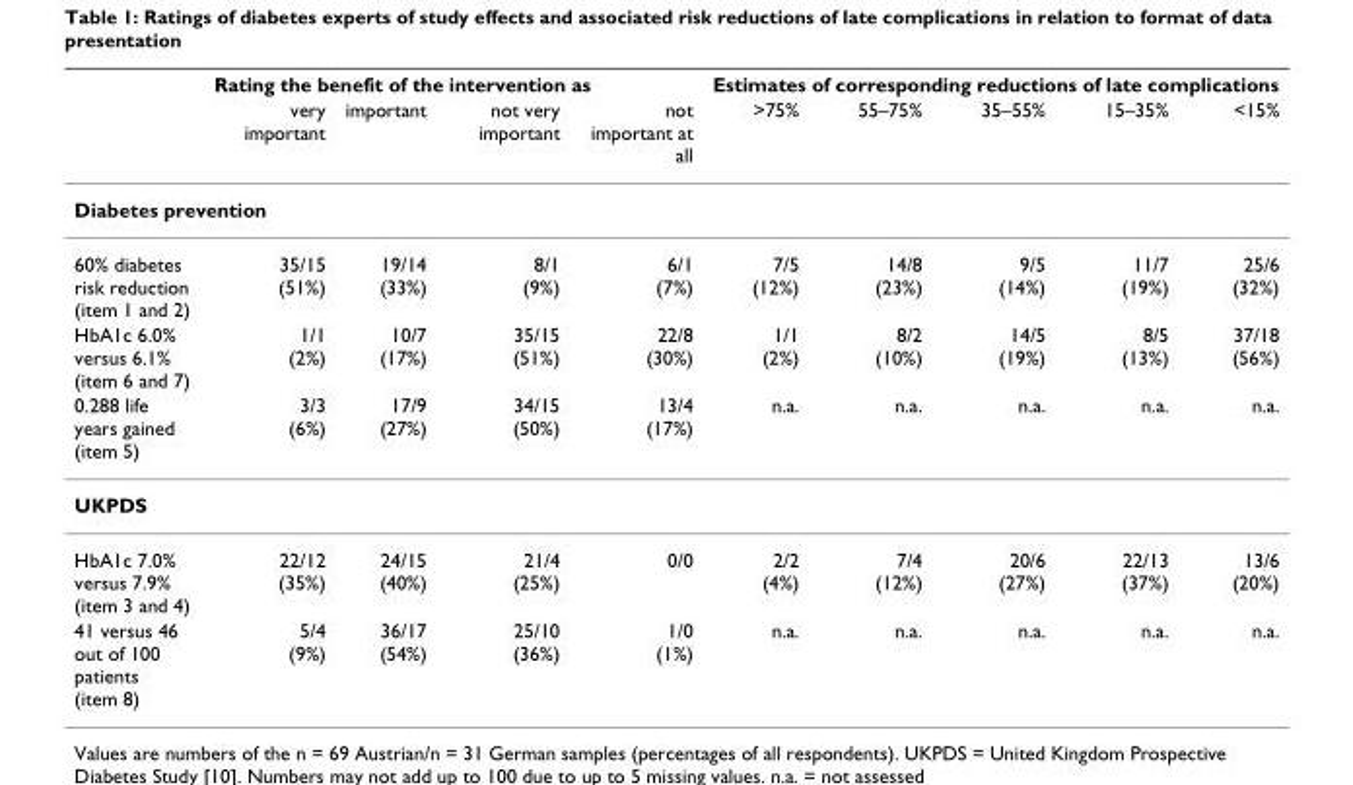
<table><thead><tr><td rowspan="2"></td><td colspan="4">Rating the benefit of the intervention as</td><td colspan="5">Estimates of corresponding reductions of late complications</td></tr><tr><td>very important</td><td>important</td><td>not very important</td><td>not important at all</td><td>&gt;75%</td><td>55–75%</td><td>35–55%</td><td>15–35%</td><td>&lt;15%</td></tr></thead><tbody><tr><td colspan="10">Diabetes prevention</td></tr><tr><td>60% diabetes risk reduction (item 1 and 2)</td><td>35/15 (51%)</td><td>19/14 (33%)</td><td>8/1 (9%)</td><td>6/1 (7%)</td><td>7/5 (12%)</td><td>14/8 (23%)</td><td>9/5 (14%)</td><td>11/7 (19%)</td><td>25/6 (32%)</td></tr><tr><td>HbA1c 6.0% versus 6.1% (item 6 and 7)</td><td>1/1 (2%)</td><td>10/7 (17%)</td><td>35/15 (51%)</td><td>22/8 (30%)</td><td>1/1 (2%)</td><td>8/2 (10%)</td><td>14/5 (19%)</td><td>8/5 (13%)</td><td>37/18 (56%)</td></tr><tr><td>0.288 life years gained (item 5)</td><td>3/3 (6%)</td><td>17/9 (27%)</td><td>34/15 (50%)</td><td>13/4 (17%)</td><td>n.a.</td><td>n.a.</td><td>n.a.</td><td>n.a.</td><td>n.a.</td></tr><tr><td colspan="10">UKPDS</td></tr><tr><td>HbA1c 7.0% versus 7.9% (item 3 and 4)</td><td>22/12 (35%)</td><td>24/15 (40%)</td><td>21/4 (25%)</td><td>0/0</td><td>2/2 (4%)</td><td>7/4 (12%)</td><td>20/6 (27%)</td><td>22/13 (37%)</td><td>13/6 (20%)</td></tr><tr><td>41 versus 46 out of 100 patients (item 8)</td><td>5/4 (9%)</td><td>36/17 (54%)</td><td>25/10 (36%)</td><td>1/0 (1%)</td><td>n.a.</td><td>n.a.</td><td>n.a.</td><td>n.a.</td><td>n.a.</td></tr></tbody></table>